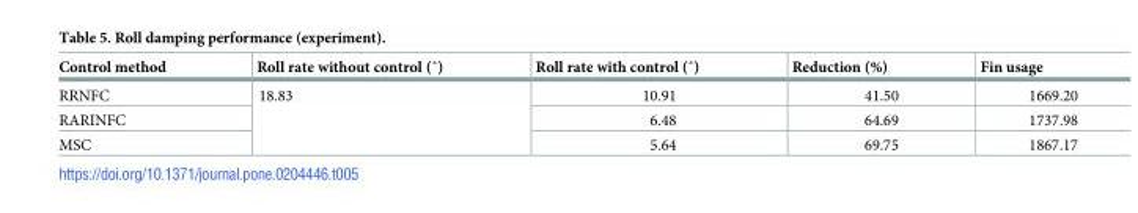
<table><thead><tr><td>Control method</td><td>Roll rate without control (˚)</td><td>Roll rate with control (˚)</td><td>Reduction (%)</td><td>Fin usage</td></tr></thead><tbody><tr><td>RRNFC</td><td rowspan="3">18.83</td><td>10.91</td><td>41.50</td><td>1669.20</td></tr><tr><td>RARINFC</td><td>6.48</td><td>64.69</td><td>1737.98</td></tr><tr><td>MSC</td><td>5.64</td><td>69.75</td><td>1867.17</td></tr></tbody></table>